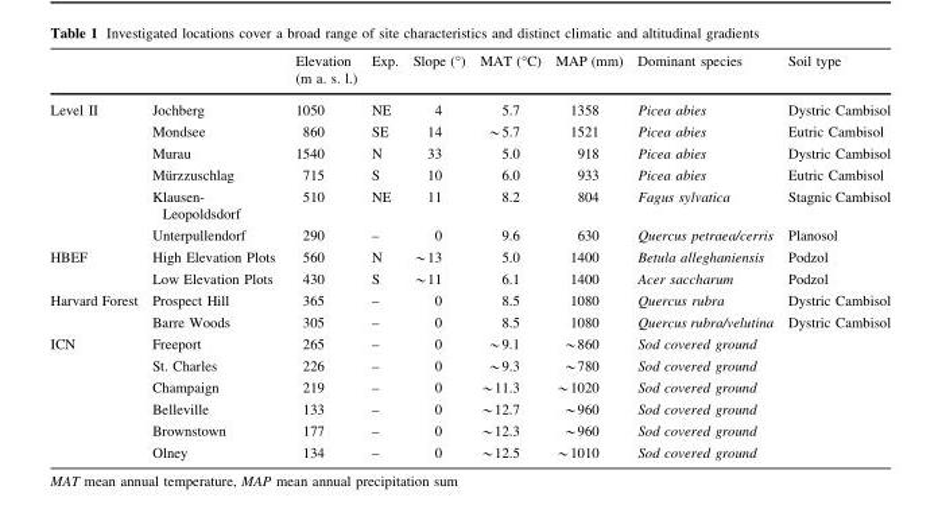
<table><thead><tr><td></td><td></td><td>Elevation (m a. s. l.)</td><td>Exp.</td><td>Slope (°)</td><td>MAT (°C)</td><td>MAP (mm)</td><td>Dominant species</td><td>Soil type</td></tr></thead><tbody><tr><td rowspan="6">Level II</td><td>Jochberg</td><td>1050</td><td>NE</td><td>4</td><td>5.7</td><td>1358</td><td>Picea abies</td><td>Dystric Cambisol</td></tr><tr><td>Mondsee</td><td>860</td><td>SE</td><td>14</td><td>*5.7</td><td>1521</td><td>Picea abies</td><td>Eutric Cambisol</td></tr><tr><td>Murau</td><td>1540</td><td>N</td><td>33</td><td>5.0</td><td>918</td><td>Picea abies</td><td>Dystric Cambisol</td></tr><tr><td>Mu¨rzzuschlag</td><td>715</td><td>S</td><td>10</td><td>6.0</td><td>933</td><td>Picea abies</td><td>Eutric Cambisol</td></tr><tr><td>Klausen- Leopoldsdorf</td><td>510</td><td>NE</td><td>11</td><td>8.2</td><td>804</td><td>Fagus sylvatica</td><td>Stagnic Cambisol</td></tr><tr><td>Unterpullendorf</td><td>290</td><td>–</td><td>0</td><td>9.6</td><td>630</td><td>Quercus petraea/cerris</td><td>Planosol</td></tr><tr><td rowspan="2">HBEF</td><td>High Elevation Plots</td><td>560</td><td>N</td><td>*13</td><td>5.0</td><td>1400</td><td>Betula alleghaniensis</td><td>Podzol</td></tr><tr><td>Low Elevation Plots</td><td>430</td><td>S</td><td>*11</td><td>6.1</td><td>1400</td><td>Acer saccharum</td><td>Podzol</td></tr><tr><td rowspan="2">Harvard Forest</td><td>Prospect Hill</td><td>365</td><td>–</td><td>0</td><td>8.5</td><td>1080</td><td>Quercus rubra</td><td>Dystric Cambisol</td></tr><tr><td>Barre Woods</td><td>305</td><td>–</td><td>0</td><td>8.5</td><td>1080</td><td>Quercus rubra/velutina</td><td>Dystric Cambisol</td></tr><tr><td rowspan="6">ICN</td><td>Freeport</td><td>265</td><td>–</td><td>0</td><td>*9.1</td><td>*860</td><td>Sod covered ground</td><td></td></tr><tr><td>St. Charles</td><td>226</td><td>–</td><td>0</td><td>*9.3</td><td>*780</td><td>Sod covered ground</td><td></td></tr><tr><td>Champaign</td><td>219</td><td>–</td><td>0</td><td>*11.3</td><td>*1020</td><td>Sod covered ground</td><td></td></tr><tr><td>Belleville</td><td>133</td><td>–</td><td>0</td><td>*12.7</td><td>*960</td><td>Sod covered ground</td><td></td></tr><tr><td>Brownstown</td><td>177</td><td>–</td><td>0</td><td>*12.3</td><td>*960</td><td>Sod covered ground</td><td></td></tr><tr><td>Olney</td><td>134</td><td>–</td><td>0</td><td>*12.5</td><td>*1010</td><td>Sod covered ground</td><td></td></tr></tbody></table>